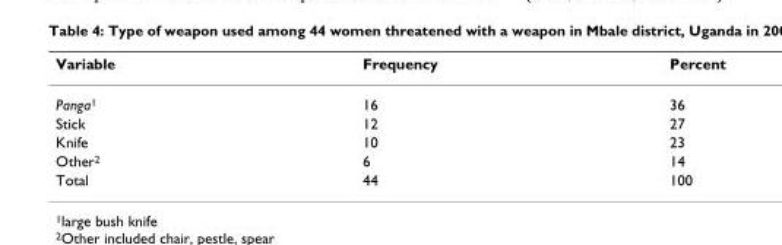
<table><thead><tr><td>Variable</td><td>Frequency</td><td>Percent</td></tr></thead><tbody><tr><td>Panga1</td><td>16</td><td>36</td></tr><tr><td>Stick</td><td>12</td><td>27</td></tr><tr><td>Knife</td><td>10</td><td>23</td></tr><tr><td>Other2</td><td>6</td><td>14</td></tr><tr><td>Total</td><td>44</td><td>100</td></tr></tbody></table>